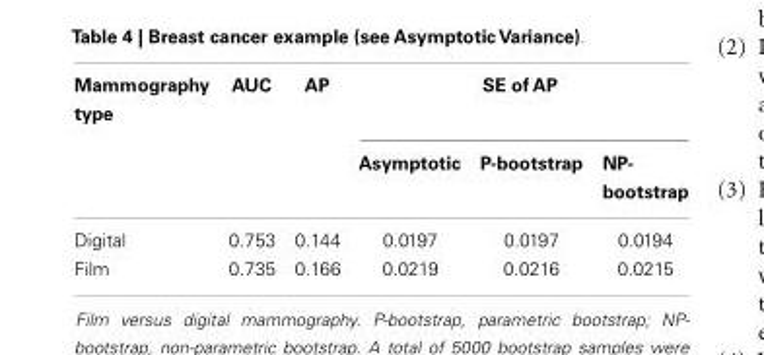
<table><thead><tr><td rowspan="2">Mammography type</td><td rowspan="2">AUC</td><td rowspan="2">AP</td><td colspan="3">SE of AP</td></tr><tr><td>Asymptotic</td><td>P-bootstrap</td><td>NP- bootstrap</td></tr></thead><tbody><tr><td>Digital</td><td>0.753</td><td>0.144</td><td>0.0197</td><td>0.0197</td><td>0.0194</td></tr><tr><td>Film</td><td>0.735</td><td>0.166</td><td>0.0219</td><td>0.0216</td><td>0.0215</td></tr></tbody></table>